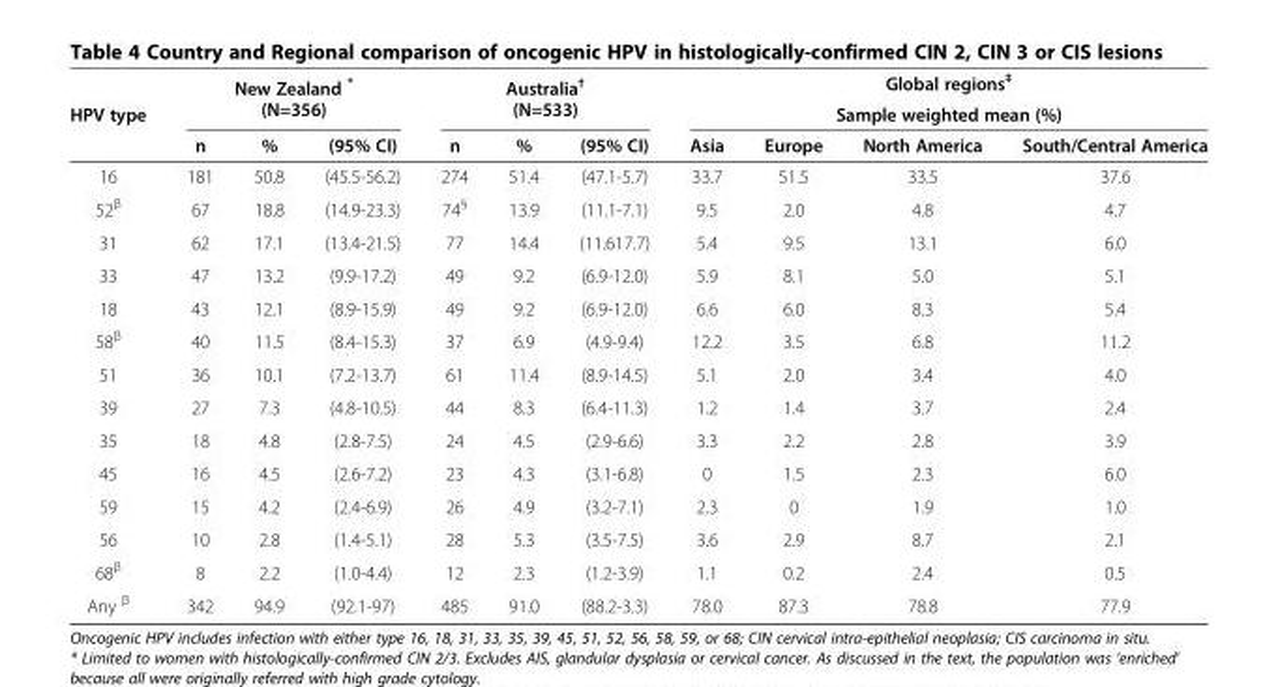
<table><thead><tr><td rowspan="3">HPV type</td><td rowspan="2" colspan="3">New Zealand * (N=356)</td><td rowspan="2" colspan="3">Australia<sup>†</sup> (N=533)</td><td rowspan="2" colspan="4">Global regions<sup>‡</sup> Sample weighted mean (%)</td></tr><tr></tr><tr><td>n</td><td>%</td><td>(95% CI)</td><td>n</td><td>%</td><td>(95% CI)</td><td>Asia</td><td>Europe</td><td>North America</td><td>South/Central America</td></tr></thead><tbody><tr><td>16</td><td>181</td><td>50.8</td><td>(45.5-56.2)</td><td>274</td><td>51.4</td><td>(47.1-5.7)</td><td>33.7</td><td>51.5</td><td>33.5</td><td>37.6</td></tr><tr><td>52<sup>β</sup></td><td>67</td><td>18.8</td><td>(14.9-23.3)</td><td>74<sup>§</sup></td><td>13.9</td><td>(11.1-7.1)</td><td>9.5</td><td>2.0</td><td>4.8</td><td>4.7</td></tr><tr><td>31</td><td>62</td><td>17.1</td><td>(13.4-21.5)</td><td>77</td><td>14.4</td><td>(11.617.7)</td><td>5.4</td><td>9.5</td><td>13.1</td><td>6.0</td></tr><tr><td>33</td><td>47</td><td>13.2</td><td>(9.9-17.2)</td><td>49</td><td>9.2</td><td>(6.9-12.0)</td><td>5.9</td><td>8.1</td><td>5.0</td><td>5.1</td></tr><tr><td>18</td><td>43</td><td>12.1</td><td>(8.9-15.9)</td><td>49</td><td>9.2</td><td>(6.9-12.0)</td><td>6.6</td><td>6.0</td><td>8.3</td><td>5.4</td></tr><tr><td>58<sup>β</sup></td><td>40</td><td>11.5</td><td>(8.4-15.3)</td><td>37</td><td>6.9</td><td>(4.9-9.4)</td><td>12.2</td><td>3.5</td><td>6.8</td><td>11.2</td></tr><tr><td>51</td><td>36</td><td>10.1</td><td>(7.2-13.7)</td><td>61</td><td>11.4</td><td>(8.9-14.5)</td><td>5.1</td><td>2.0</td><td>3.4</td><td>4.0</td></tr><tr><td>39</td><td>27</td><td>7.3</td><td>(4.8-10.5)</td><td>44</td><td>8.3</td><td>(6.4-11.3)</td><td>1.2</td><td>1.4</td><td>3.7</td><td>2.4</td></tr><tr><td>35</td><td>18</td><td>4.8</td><td>(2.8-7.5)</td><td>24</td><td>4.5</td><td>(2.9-6.6)</td><td>3.3</td><td>2.2</td><td>2.8</td><td>3.9</td></tr><tr><td>45</td><td>16</td><td>4.5</td><td>(2.6-7.2)</td><td>23</td><td>4.3</td><td>(3.1-6.8)</td><td>0</td><td>1.5</td><td>2.3</td><td>6.0</td></tr><tr><td>59</td><td>15</td><td>4.2</td><td>(2.4-6.9)</td><td>26</td><td>4.9</td><td>(3.2-7.1)</td><td>2.3</td><td>0</td><td>1.9</td><td>1.0</td></tr><tr><td>56</td><td>10</td><td>2.8</td><td>(1.4-5.1)</td><td>28</td><td>5.3</td><td>(3.5-7.5)</td><td>3.6</td><td>2.9</td><td>8.7</td><td>2.1</td></tr><tr><td>68<sup>β</sup></td><td>8</td><td>2.2</td><td>(1.0-4.4)</td><td>12</td><td>2.3</td><td>(1.2-3.9)</td><td>1.1</td><td>0.2</td><td>2.4</td><td>0.5</td></tr><tr><td>Any <sup>β</sup></td><td>342</td><td>94.9</td><td>(92.1-97)</td><td>485</td><td>91.0</td><td>(88.2-3.3)</td><td>78.0</td><td>87.3</td><td>78.8</td><td>77.9</td></tr></tbody></table>